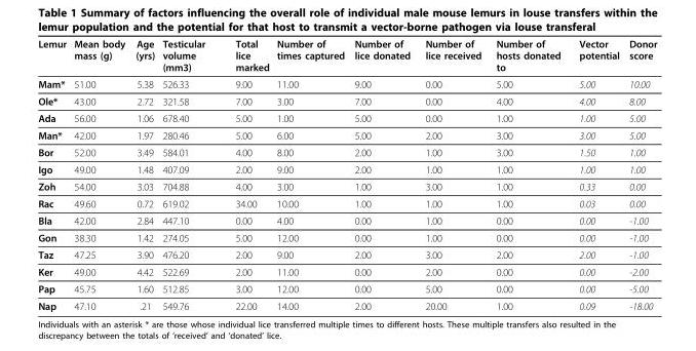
<table><thead><tr><td>Lemur</td><td>Mean body mass (g)</td><td>Age (yrs)</td><td>Testicular volume (mm3)</td><td>Total lice marked</td><td>Number of times captured</td><td>Number of lice donated</td><td>Number of lice received</td><td>Number of hosts donated to</td><td>Vector potential</td><td>Donor score</td></tr></thead><tbody><tr><td>Mam*</td><td>51.00</td><td>5.38</td><td>526.33</td><td>9.00</td><td>11.00</td><td>9.00</td><td>0.00</td><td>5.00</td><td>5.00</td><td>10.00</td></tr><tr><td>Ole*</td><td>43.00</td><td>2.72</td><td>321.58</td><td>7.00</td><td>3.00</td><td>7.00</td><td>0.00</td><td>4.00</td><td>4.00</td><td>8.00</td></tr><tr><td>Ada</td><td>56.00</td><td>1.06</td><td>678.40</td><td>5.00</td><td>1.00</td><td>5.00</td><td>0.00</td><td>1.00</td><td>1.00</td><td>5.00</td></tr><tr><td>Man*</td><td>42.00</td><td>1.97</td><td>280.46</td><td>5.00</td><td>6.00</td><td>5.00</td><td>2.00</td><td>3.00</td><td>3.00</td><td>5.00</td></tr><tr><td>Bor</td><td>52.00</td><td>3.49</td><td>584.01</td><td>4.00</td><td>8.00</td><td>2.00</td><td>1.00</td><td>3.00</td><td>1.50</td><td>1.00</td></tr><tr><td>Igo</td><td>49.00</td><td>1.48</td><td>407.09</td><td>2.00</td><td>9.00</td><td>2.00</td><td>1.00</td><td>1.00</td><td>1.00</td><td>1.00</td></tr><tr><td>Zoh</td><td>54.00</td><td>3.03</td><td>704.88</td><td>4.00</td><td>3.00</td><td>1.00</td><td>3.00</td><td>1.00</td><td>0.33</td><td>0.00</td></tr><tr><td>Rac</td><td>49.60</td><td>0.72</td><td>619.02</td><td>34.00</td><td>10.00</td><td>1.00</td><td>1.00</td><td>1.00</td><td>0.03</td><td>0.00</td></tr><tr><td>Bla</td><td>42.00</td><td>2.84</td><td>447.10</td><td>0.00</td><td>4.00</td><td>0.00</td><td>1.00</td><td>0.00</td><td>0.00</td><td>-1.00</td></tr><tr><td>Gon</td><td>38.30</td><td>1.42</td><td>274.05</td><td>5.00</td><td>12.00</td><td>0.00</td><td>1.00</td><td>0.00</td><td>0.00</td><td>-1.00</td></tr><tr><td>Taz</td><td>47.25</td><td>3.90</td><td>476.20</td><td>2.00</td><td>9.00</td><td>2.00</td><td>3.00</td><td>2.00</td><td>2.00</td><td>-1.00</td></tr><tr><td>Ker</td><td>49.00</td><td>4.42</td><td>522.69</td><td>2.00</td><td>11.00</td><td>0.00</td><td>2.00</td><td>0.00</td><td>0.00</td><td>-2.00</td></tr><tr><td>Pap</td><td>45.75</td><td>1.60</td><td>512.85</td><td>3.00</td><td>12.00</td><td>0.00</td><td>5.00</td><td>0.00</td><td>0.00</td><td>-5.00</td></tr><tr><td>Nap</td><td>47.10</td><td>.21</td><td>549.76</td><td>22.00</td><td>14.00</td><td>2.00</td><td>20.00</td><td>1.00</td><td>0.09</td><td>-18.00</td></tr></tbody></table>